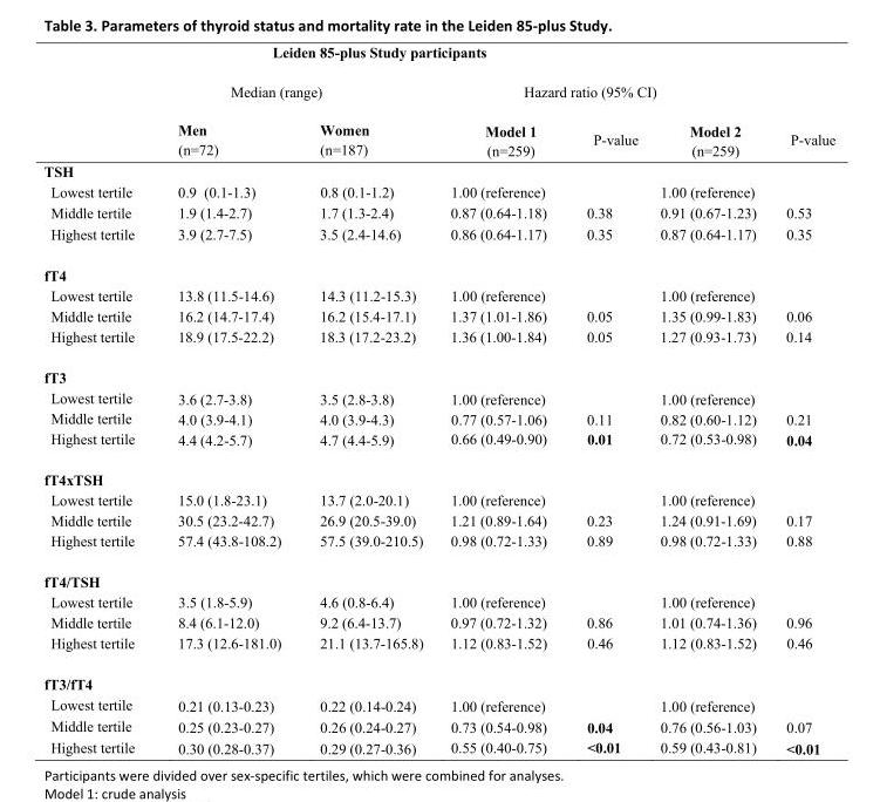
<table><thead><tr><td colspan="7">Leiden 85-plus Study participants</td></tr><tr><td rowspan="2"></td><td colspan="2">Median (range)</td><td colspan="4">Hazard ratio (95% CI)</td></tr><tr><td>Men (n=72)</td><td>Women (n=187)</td><td>Model 1 (n=259)</td><td>P-value</td><td>Model 2 (n=259)</td><td>P-value</td></tr></thead><tbody><tr><td colspan="7">TSH</td></tr><tr><td>Lowest tertile</td><td>0.9 (0.1-1.3)</td><td>0.8 (0.1-1.2)</td><td>1.00 (reference)</td><td></td><td>1.00 (reference)</td><td></td></tr><tr><td>Middle tertile</td><td>1.9 (1.4-2.7)</td><td>1.7 (1.3-2.4)</td><td>0.87 (0.64-1.18)</td><td>0.38</td><td>0.91 (0.67-1.23)</td><td>0.53</td></tr><tr><td>Highest tertile</td><td>3.9 (2.7-7.5)</td><td>3.5 (2.4-14.6)</td><td>0.86 (0.64-1.17)</td><td>0.35</td><td>0.87 (0.64-1.17)</td><td>0.35</td></tr><tr><td colspan="7">fT4</td></tr><tr><td>Lowest tertile</td><td>13.8 (11.5-14.6)</td><td>14.3 (11.2-15.3)</td><td>1.00 (reference)</td><td></td><td>1.00 (reference)</td><td></td></tr><tr><td>Middle tertile</td><td>16.2 (14.7-17.4)</td><td>16.2 (15.4-17.1)</td><td>1.37 (1.01-1.86)</td><td>0.05</td><td>1.35 (0.99-1.83)</td><td>0.06</td></tr><tr><td>Highest tertile</td><td>18.9 (17.5-22.2)</td><td>18.3 (17.2-23.2)</td><td>1.36 (1.00-1.84)</td><td>0.05</td><td>1.27 (0.93-1.73)</td><td>0.14</td></tr><tr><td colspan="7">fT3</td></tr><tr><td>Lowest tertile</td><td>3.6 (2.7-3.8)</td><td>3.5 (2.8-3.8)</td><td>1.00 (reference)</td><td></td><td>1.00 (reference)</td><td></td></tr><tr><td>Middle tertile</td><td>4.0 (3.9-4.1)</td><td>4.0 (3.9-4.3)</td><td>0.77 (0.57-1.06)</td><td>0.11</td><td>0.82 (0.60-1.12)</td><td>0.21</td></tr><tr><td>Highest tertile</td><td>4.4 (4.2-5.7)</td><td>4.7 (4.4-5.9)</td><td>0.66 (0.49-0.90)</td><td>0.01</td><td>0.72 (0.53-0.98)</td><td>0.04</td></tr><tr><td colspan="7">fT4xTSH</td></tr><tr><td>Lowest tertile</td><td>15.0 (1.8-23.1)</td><td>13.7 (2.0-20.1)</td><td>1.00 (reference)</td><td></td><td>1.00 (reference)</td><td></td></tr><tr><td>Middle tertile</td><td>30.5 (23.2-42.7)</td><td>26.9 (20.5-39.0)</td><td>1.21 (0.89-1.64)</td><td>0.23</td><td>1.24 (0.91-1.69)</td><td>0.17</td></tr><tr><td>Highest tertile</td><td>57.4 (43.8-108.2)</td><td>57.5 (39.0-210.5)</td><td>0.98 (0.72-1.33)</td><td>0.89</td><td>0.98 (0.72-1.33)</td><td>0.88</td></tr><tr><td colspan="7">fT4/TSH</td></tr><tr><td>Lowest tertile</td><td>3.5 (1.8-5.9)</td><td>4.6 (0.8-6.4)</td><td>1.00 (reference)</td><td></td><td>1.00 (reference)</td><td></td></tr><tr><td>Middle tertile</td><td>8.4 (6.1-12.0)</td><td>9.2 (6.4-13.7)</td><td>0.97 (0.72-1.32)</td><td>0.86</td><td>1.01 (0.74-1.36)</td><td>0.96</td></tr><tr><td>Highest tertile</td><td>17.3 (12.6-181.0)</td><td>21.1 (13.7-165.8)</td><td>1.12 (0.83-1.52)</td><td>0.46</td><td>1.12 (0.83-1.52)</td><td>0.46</td></tr><tr><td colspan="7">fT3/fT4</td></tr><tr><td>Lowest tertile</td><td>0.21 (0.13-0.23)</td><td>0.22 (0.14-0.24)</td><td>1.00 (reference)</td><td></td><td>1.00 (reference)</td><td></td></tr><tr><td>Middle tertile</td><td>0.25 (0.23-0.27)</td><td>0.26 (0.24-0.27)</td><td>0.73 (0.54-0.98)</td><td>0.04</td><td>0.76 (0.56-1.03)</td><td>0.07</td></tr><tr><td>Highest tertile</td><td>0.30 (0.28-0.37)</td><td>0.29 (0.27-0.36)</td><td>0.55 (0.40-0.75)</td><td>&lt;0.01</td><td>0.59 (0.43-0.81)</td><td>&lt;0.01</td></tr></tbody></table>